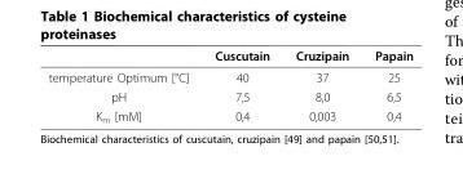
<table><thead><tr><td></td><td>Cuscutain</td><td>Cruzipain</td><td>Papain</td></tr></thead><tbody><tr><td>temperature Optimum [°C]</td><td>40</td><td>37</td><td>25</td></tr><tr><td>pH</td><td>7,5</td><td>8,0</td><td>6,5</td></tr><tr><td>K<sub>m</sub> [mM]</td><td>0,4</td><td>0,003</td><td>0,4</td></tr></tbody></table>